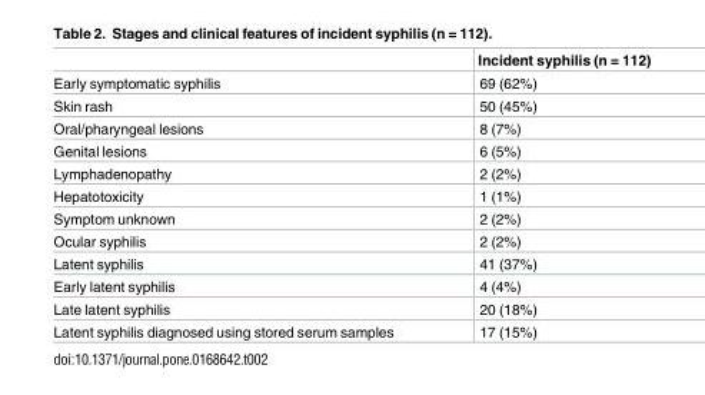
<table><thead><tr><td></td><td>Incident syphilis (n = 112)</td></tr></thead><tbody><tr><td>Early symptomatic syphilis</td><td>69 (62%)</td></tr><tr><td>Skin rash</td><td>50 (45%)</td></tr><tr><td>Oral/pharyngeal lesions</td><td>8 (7%)</td></tr><tr><td>Genital lesions</td><td>6 (5%)</td></tr><tr><td>Lymphadenopathy</td><td>2 (2%)</td></tr><tr><td>Hepatotoxicity</td><td>1 (1%)</td></tr><tr><td>Symptom unknown</td><td>2 (2%)</td></tr><tr><td>Ocular syphilis</td><td>2 (2%)</td></tr><tr><td>Latent syphilis</td><td>41 (37%)</td></tr><tr><td>Early latent syphilis</td><td>4 (4%)</td></tr><tr><td>Late latent syphilis</td><td>20 (18%)</td></tr><tr><td>Latent syphilis diagnosed using stored serum samples</td><td>17 (15%)</td></tr></tbody></table>